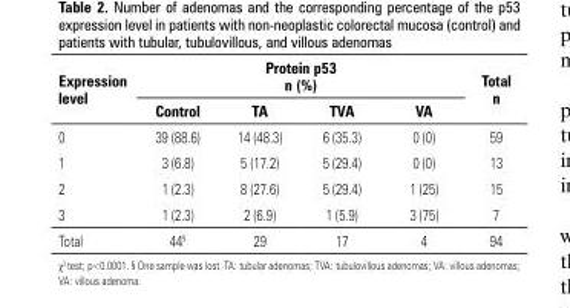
<table><thead><tr><td rowspan="2">Expression level</td><td colspan="4">Protein p53 n (%)</td><td rowspan="2">Total n</td></tr><tr><td>Control</td><td>TA</td><td>TVA</td><td>VA</td></tr></thead><tbody><tr><td>0</td><td>39 (88.6)</td><td>14 (48.3)</td><td>6 (35.3)</td><td>0 (0)</td><td>59</td></tr><tr><td>1</td><td>3 (6.8)</td><td>5 (17.2)</td><td>5 (29.4)</td><td>0 (0)</td><td>13</td></tr><tr><td>2</td><td>1 (2.3)</td><td>8 (27.6)</td><td>5 (29.4)</td><td>1 (25)</td><td>15</td></tr><tr><td>3</td><td>1 (2.3)</td><td>2 (6.9)</td><td>1 (5.9)</td><td>3 (75)</td><td>7</td></tr><tr><td>Total</td><td>44§</td><td>29</td><td>17</td><td>4</td><td>94</td></tr></tbody></table>